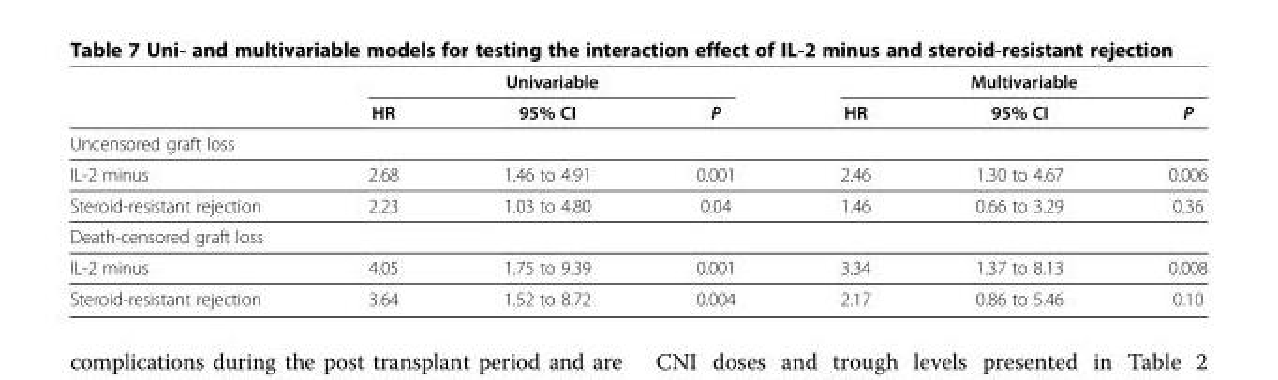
<table><thead><tr><td rowspan="2"></td><td colspan="3">Univariable</td><td colspan="3">Multivariable</td></tr><tr><td>HR</td><td>95% CI</td><td>P</td><td>HR</td><td>95% CI</td><td>P</td></tr></thead><tbody><tr><td colspan="7">Uncensored graft loss</td></tr><tr><td>IL-2 minus</td><td>2.68</td><td>1.46 to 4.91</td><td>0.001</td><td>2.46</td><td>1.30 to 4.67</td><td>0.006</td></tr><tr><td>Steroid-resistant rejection</td><td>2.23</td><td>1.03 to 4.80</td><td>0.04</td><td>1.46</td><td>0.66 to 3.29</td><td>0.36</td></tr><tr><td colspan="7">Death-censored graft loss</td></tr><tr><td>IL-2 minus</td><td>4.05</td><td>1.75 to 9.39</td><td>0.001</td><td>3.34</td><td>1.37 to 8.13</td><td>0.008</td></tr><tr><td>Steroid-resistant rejection</td><td>3.64</td><td>1.52 to 8.72</td><td>0.004</td><td>2.17</td><td>0.86 to 5.46</td><td>0.10</td></tr></tbody></table>